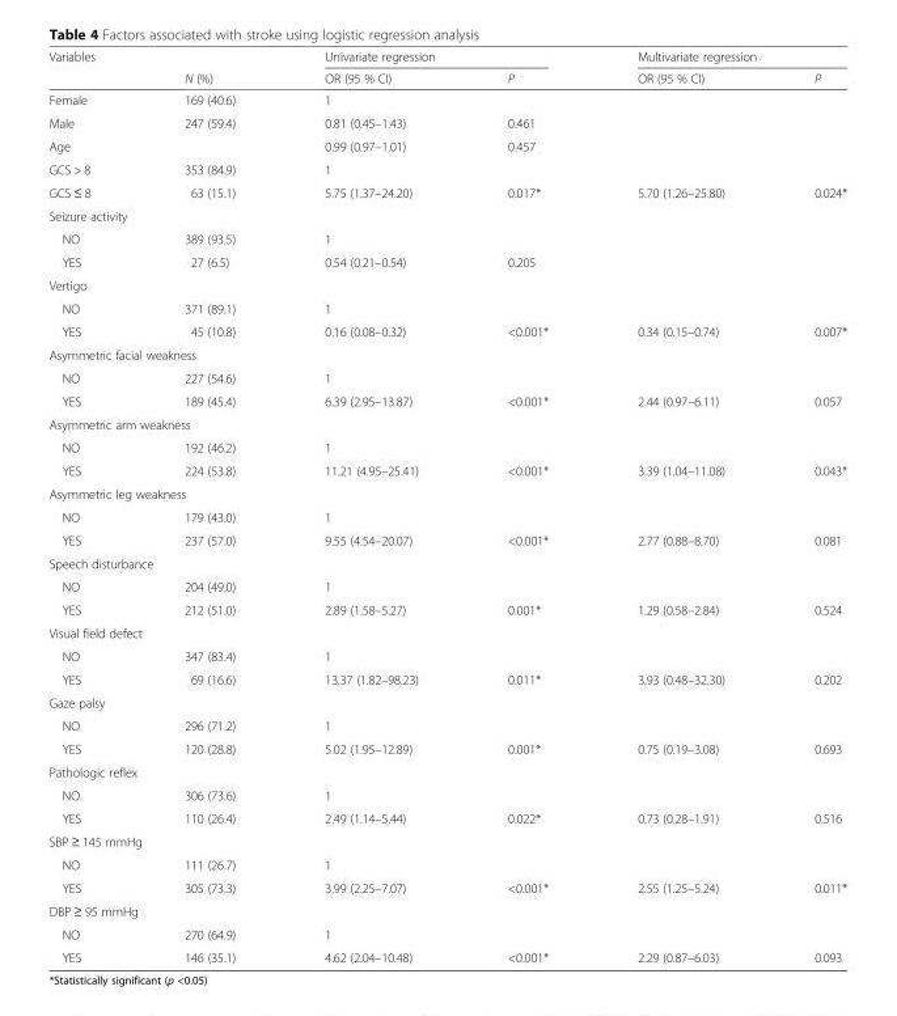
<table><thead><tr><td rowspan="2">Variables</td><td rowspan="2">N (%)</td><td colspan="2">Univariate regression</td><td colspan="2">Multivariate regression</td></tr><tr><td>OR (95 % CI)</td><td>P</td><td>OR (95 % CI)</td><td>P</td></tr></thead><tbody><tr><td>Female</td><td>169 (40.6)</td><td>1</td><td></td><td></td><td></td></tr><tr><td>Male</td><td>247 (59.4)</td><td>0.81 (0.45–1.43)</td><td>0.461</td><td></td><td></td></tr><tr><td>Age</td><td></td><td>0.99 (0.97–1.01)</td><td>0.457</td><td></td><td></td></tr><tr><td>GCS &gt; 8</td><td>353 (84.9)</td><td>1</td><td></td><td></td><td></td></tr><tr><td>GCS ≤ 8</td><td>63 (15.1)</td><td>5.75 (1.37–24.20)</td><td>0.017*</td><td>5.70 (1.26–25.80)</td><td>0.024*</td></tr><tr><td colspan="6">Seizure activity</td></tr><tr><td>NO</td><td>389 (93.5)</td><td>1</td><td></td><td></td><td></td></tr><tr><td>YES</td><td>27 (6.5)</td><td>0.54 (0.21–0.54)</td><td>0.205</td><td></td><td></td></tr><tr><td colspan="6">Vertigo</td></tr><tr><td>NO</td><td>371 (89.1)</td><td>1</td><td></td><td></td><td></td></tr><tr><td>YES</td><td>45 (10.8)</td><td>0.16 (0.08–0.32)</td><td>&lt;0.001*</td><td>0.34 (0.15–0.74)</td><td>0.007*</td></tr><tr><td colspan="6">Asymmetric facial weakness</td></tr><tr><td>NO</td><td>227 (54.6)</td><td>1</td><td></td><td></td><td></td></tr><tr><td>YES</td><td>189 (45.4)</td><td>6.39 (2.95–13.87)</td><td>&lt;0.001*</td><td>2.44 (0.97–6.11)</td><td>0.057</td></tr><tr><td colspan="6">Asymmetric arm weakness</td></tr><tr><td>NO</td><td>192 (46.2)</td><td>1</td><td></td><td></td><td></td></tr><tr><td>YES</td><td>224 (53.8)</td><td>11.21 (4.95–25.41)</td><td>&lt;0.001*</td><td>3.39 (1.04–11.08)</td><td>0.043*</td></tr><tr><td colspan="6">Asymmetric leg weakness</td></tr><tr><td>NO</td><td>179 (43.0)</td><td>1</td><td></td><td></td><td></td></tr><tr><td>YES</td><td>237 (57.0)</td><td>9.55 (4.54–20.07)</td><td>&lt;0.001*</td><td>2.77 (0.88–8.70)</td><td>0.081</td></tr><tr><td colspan="6">Speech disturbance</td></tr><tr><td>NO</td><td>204 (49.0)</td><td>1</td><td></td><td></td><td></td></tr><tr><td>YES</td><td>212 (51.0)</td><td>2.89 (1.58–5.27)</td><td>0.001*</td><td>1.29 (0.58–2.84)</td><td>0.524</td></tr><tr><td colspan="6">Visual field defect</td></tr><tr><td>NO</td><td>347 (83.4)</td><td>1</td><td></td><td></td><td></td></tr><tr><td>YES</td><td>69 (16.6)</td><td>13.37 (1.82–98.23)</td><td>0.011*</td><td>3.93 (0.48–32.30)</td><td>0.202</td></tr><tr><td colspan="6">Gaze palsy</td></tr><tr><td>NO</td><td>296 (71.2)</td><td>1</td><td></td><td></td><td></td></tr><tr><td>YES</td><td>120 (28.8)</td><td>5.02 (1.95–12.89)</td><td>0.001*</td><td>0.75 (0.19–3.08)</td><td>0.693</td></tr><tr><td colspan="6">Pathologic reflex</td></tr><tr><td>NO</td><td>306 (73.6)</td><td>1</td><td></td><td></td><td></td></tr><tr><td>YES</td><td>110 (26.4)</td><td>2.49 (1.14–5.44)</td><td>0.022*</td><td>0.73 (0.28–1.91)</td><td>0.516</td></tr><tr><td colspan="6">SBP ≥ 145 mmHg</td></tr><tr><td>NO</td><td>111 (26.7)</td><td>1</td><td></td><td></td><td></td></tr><tr><td>YES</td><td>305 (73.3)</td><td>3.99 (2.25–7.07)</td><td>&lt;0.001*</td><td>2.55 (1.25–5.24)</td><td>0.011*</td></tr><tr><td colspan="6">DBP ≥ 95 mmHg</td></tr><tr><td>NO</td><td>270 (64.9)</td><td>1</td><td></td><td></td><td></td></tr><tr><td>YES</td><td>146 (35.1)</td><td>4.62 (2.04–10.48)</td><td>&lt;0.001*</td><td>2.29 (0.87–6.03)</td><td>0.093</td></tr></tbody></table>